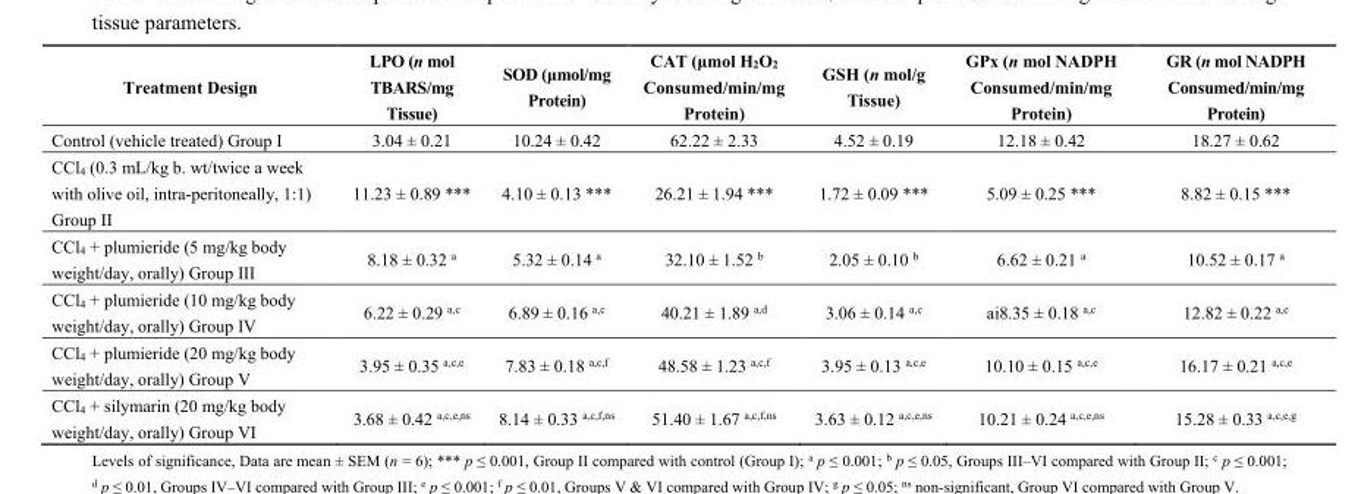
<table><thead><tr><td>Treatment Design</td><td>LPO (n mol TBARS/mg Tissue)</td><td>SOD (μmol/mg Protein)</td><td>CAT (μmol H<sub>2</sub>O<sub>2</sub> Consumed/min/mg Protein)</td><td>GSH (n mol/g Tissue)</td><td>GPx (n mol NADPH Consumed/min/mg Protein)</td><td>GR (n mol NADPH Consumed/min/mg Protein)</td></tr></thead><tbody><tr><td>Control (vehicle treated) Group I</td><td>3.04 ± 0.21</td><td>10.24 ± 0.42</td><td>62.22 ± 2.33</td><td>4.52 ± 0.19</td><td>12.18 ± 0.42</td><td>18.27 ± 0.62</td></tr><tr><td>CCl<sub>4</sub> (0.3 mL/kg b. wt/twice a week with olive oil, intra-peritoneally, 1:1) Group II</td><td>11.23 ± 0.89 ***</td><td>4.10 ± 0.13 ***</td><td>26.21 ± 1.94 ***</td><td>1.72 ± 0.09 ***</td><td>5.09 ± 0.25 ***</td><td>8.82 ± 0.15 ***</td></tr><tr><td>CCl<sub>4</sub> + plumieride (5 mg/kg body weight/day, orally) Group III</td><td>8.18 ± 0.32 <sup>a</sup></td><td>5.32 ± 0.14 <sup>a</sup></td><td>32.10 ± 1.52 <sup>b</sup></td><td>2.05 ± 0.10 <sup>b</sup></td><td>6.62 ± 0.21 <sup>a</sup></td><td>10.52 ± 0.17 <sup>a</sup></td></tr><tr><td>CCl<sub>4</sub> + plumieride (10 mg/kg body weight/day, orally) Group IV</td><td>6.22 ± 0.29 <sup>a,c</sup></td><td>6.89 ± 0.16 <sup>a,c</sup></td><td>40.21 ± 1.89 <sup>a,d</sup></td><td>3.06 ± 0.14 <sup>a,c</sup></td><td>ai8.35 ± 0.18 <sup>a,c</sup></td><td>12.82 ± 0.22 <sup>a,c</sup></td></tr><tr><td>CCl<sub>4</sub> + plumieride (20 mg/kg body weight/day, orally) Group V</td><td>3.95 ± 0.35 <sup>a,c,e</sup></td><td>7.83 ± 0.18 <sup>a,c,f</sup></td><td>48.58 ± 1.23 <sup>a,c,f</sup></td><td>3.95 ± 0.13 <sup>a,c,e</sup></td><td>10.10 ± 0.15 <sup>a,c,e</sup></td><td>16.17 ± 0.21 <sup>a,c,e</sup></td></tr><tr><td>CCl<sub>4</sub> + silymarin (20 mg/kg body weight/day, orally) Group VI</td><td>3.68 ± 0.42 <sup>a,c,e,ns</sup></td><td>8.14 ± 0.33 <sup>a,c,f,ns</sup></td><td>51.40 ± 1.67 <sup>a,c,f,ns</sup></td><td>3.63 ± 0.12 <sup>a,c,e,ns</sup></td><td>10.21 ± 0.24 <sup>a,c,e,ns</sup></td><td>15.28 ± 0.33 <sup>a,c,e,g</sup></td></tr></tbody></table>